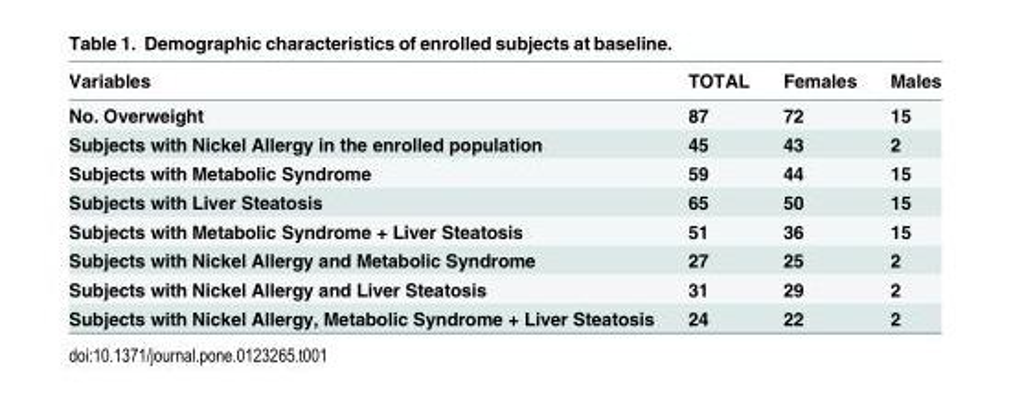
<table><thead><tr><td>Variables</td><td>TOTAL</td><td>Females</td><td>Males</td></tr></thead><tbody><tr><td>No. Overweight</td><td>87</td><td>72</td><td>15</td></tr><tr><td>Subjects with Nickel Allergy in the enrolled population</td><td>45</td><td>43</td><td>2</td></tr><tr><td>Subjects with Metabolic Syndrome</td><td>59</td><td>44</td><td>15</td></tr><tr><td>Subjects with Liver Steatosis</td><td>65</td><td>50</td><td>15</td></tr><tr><td>Subjects with Metabolic Syndrome + Liver Steatosis</td><td>51</td><td>36</td><td>15</td></tr><tr><td>Subjects with Nickel Allergy and Metabolic Syndrome</td><td>27</td><td>25</td><td>2</td></tr><tr><td>Subjects with Nickel Allergy and Liver Steatosis</td><td>31</td><td>29</td><td>2</td></tr><tr><td>Subjects with Nickel Allergy, Metabolic Syndrome + Liver Steatosis</td><td>24</td><td>22</td><td>2</td></tr></tbody></table>